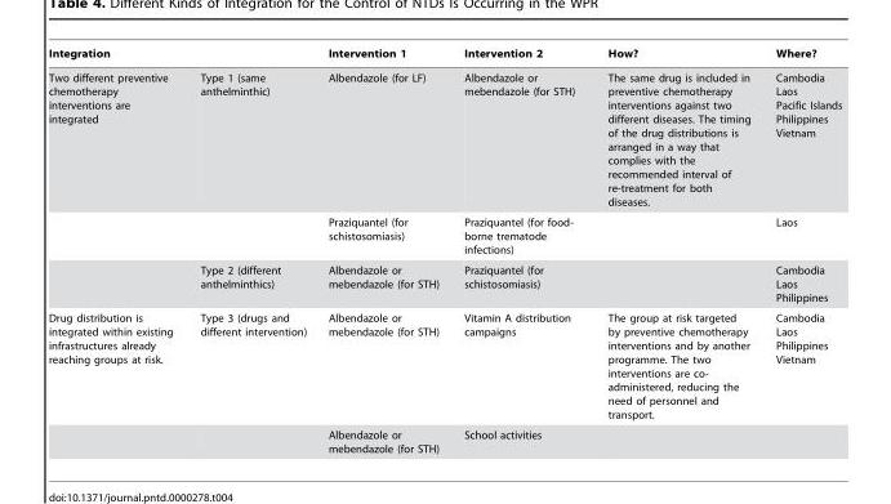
<table><thead><tr><td>Integration</td><td></td><td>Intervention 1</td><td>Intervention 2</td><td>How?</td><td>Where?</td></tr></thead><tbody><tr><td rowspan="3">Two different preventive chemotherapy interventions are integrated</td><td>Type 1 (same anthelminthic)</td><td>Albendazole (for LF)</td><td>Albendazole or mebendazole (for STH)</td><td>The same drug is included in preventive chemotherapy interventions against two different diseases. The timing of the drug distributions is arranged in a way that complies with the recommended interval of re-treatment for both diseases.</td><td>Cambodia Laos Pacific Islands Philippines Vietnam</td></tr><tr><td></td><td>Praziquantel (for schistosomiasis)</td><td>Praziquantel (for food- borne trematode infections)</td><td></td><td>Laos</td></tr><tr><td>Type 2 (different anthelminthics)</td><td>Albendazole or mebendazole (for STH)</td><td>Praziquantel (for schistosomiasis)</td><td></td><td>Cambodia Laos Philippines</td></tr><tr><td rowspan="2">Drug distribution is integrated within existing infrastructures already reaching groups at risk.</td><td>Type 3 (drugs and different intervention)</td><td>Albendazole or mebendazole (for STH)</td><td>Vitamin A distribution campaigns</td><td>The group at risk targeted by preventive chemotherapy interventions and by another programme. The two interventions are co- administered, reducing the need of personnel and transport.</td><td>Cambodia Laos Philippines Vietnam</td></tr><tr><td></td><td>Albendazole or mebendazole (for STH)</td><td>School activities</td><td></td><td></td></tr></tbody></table>